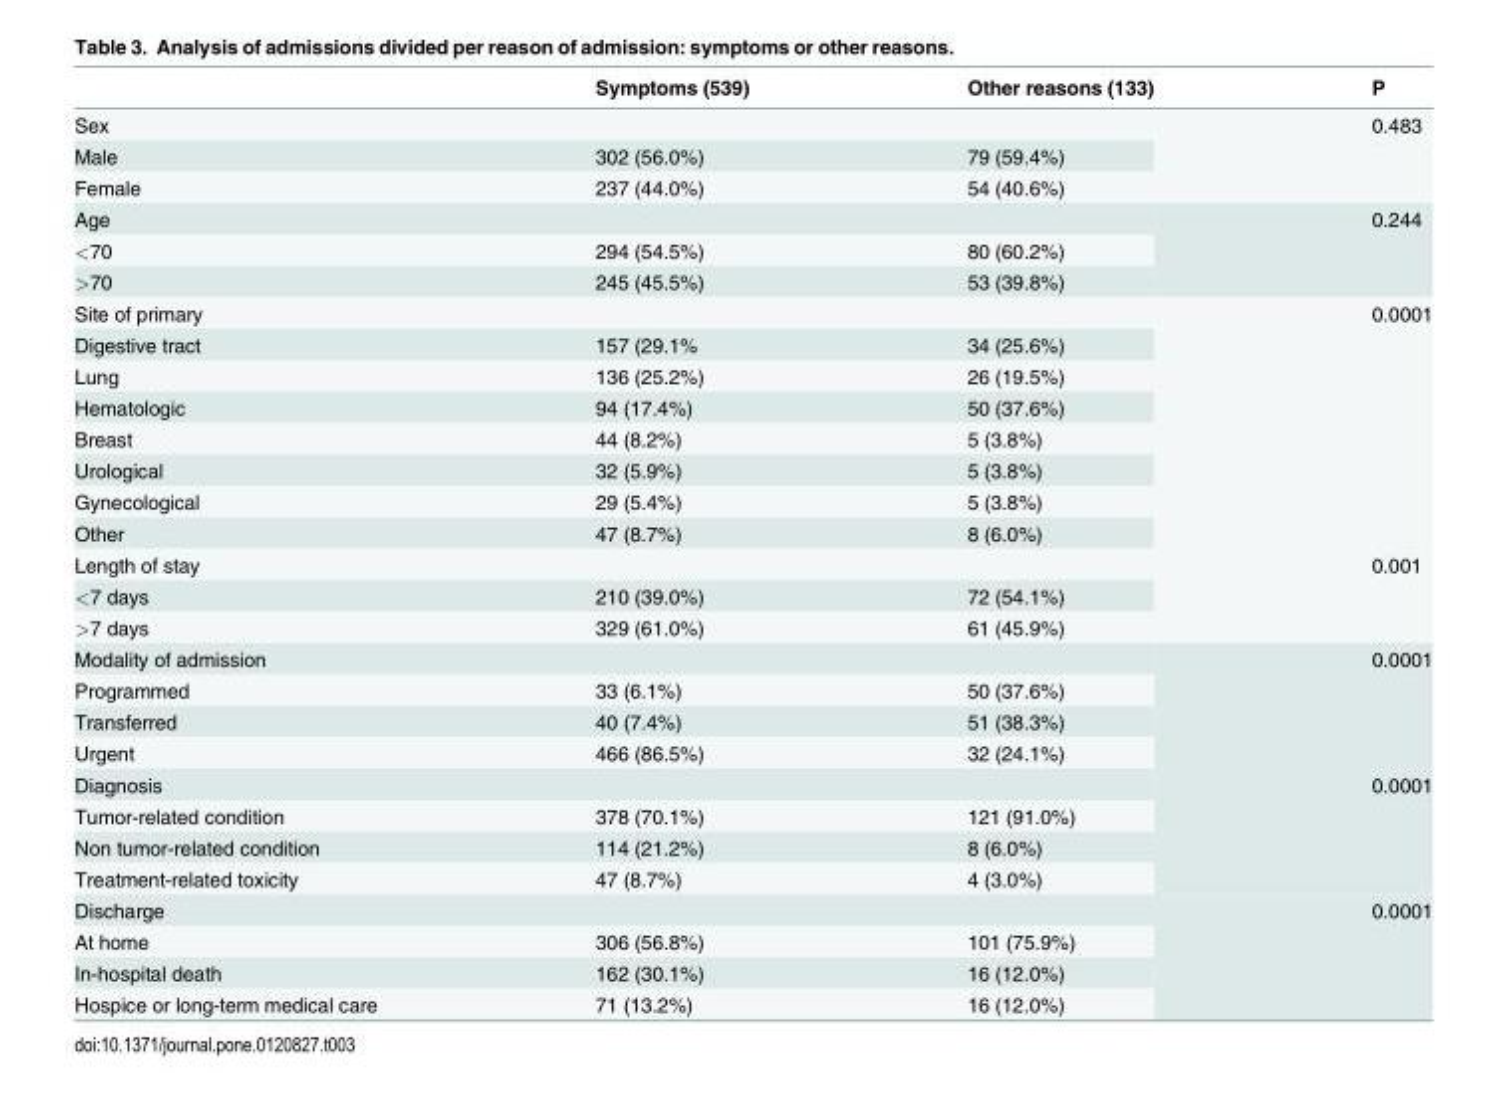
<table><thead><tr><td></td><td>Symptoms (539)</td><td>Other reasons (133)</td><td>P</td></tr></thead><tbody><tr><td colspan="3">Sex</td><td rowspan="3">0.483</td></tr><tr><td>Male</td><td>302 (56.0%)</td><td>79 (59.4%)</td></tr><tr><td>Female</td><td>237 (44.0%)</td><td>54 (40.6%)</td></tr><tr><td colspan="3">Age</td><td rowspan="3">0.244</td></tr><tr><td>&lt;70</td><td>294 (54.5%)</td><td>80 (60.2%)</td></tr><tr><td>&gt;70</td><td>245 (45.5%)</td><td>53 (39.8%)</td></tr><tr><td colspan="3">Site of primary</td><td rowspan="8">0.0001</td></tr><tr><td>Digestive tract</td><td>157 (29.1%</td><td>34 (25.6%)</td></tr><tr><td>Lung</td><td>136 (25.2%)</td><td>26 (19.5%)</td></tr><tr><td>Hematologic</td><td>94 (17.4%)</td><td>50 (37.6%)</td></tr><tr><td>Breast</td><td>44 (8.2%)</td><td>5 (3.8%)</td></tr><tr><td>Urological</td><td>32 (5.9%)</td><td>5 (3.8%)</td></tr><tr><td>Gynecological</td><td>29 (5.4%)</td><td>5 (3.8%)</td></tr><tr><td>Other</td><td>47 (8.7%)</td><td>8 (6.0%)</td></tr><tr><td colspan="3">Length of stay</td><td rowspan="3">0.001</td></tr><tr><td>&lt;7 days</td><td>210 (39.0%)</td><td>72 (54.1%)</td></tr><tr><td>&gt;7 days</td><td>329 (61.0%)</td><td>61 (45.9%)</td></tr><tr><td colspan="3">Modality of admission</td><td rowspan="4">0.0001</td></tr><tr><td>Programmed</td><td>33 (6.1%)</td><td>50 (37.6%)</td></tr><tr><td>Transferred</td><td>40 (7.4%)</td><td>51 (38.3%)</td></tr><tr><td>Urgent</td><td>466 (86.5%)</td><td>32 (24.1%)</td></tr><tr><td colspan="3">Diagnosis</td><td rowspan="4">0.0001</td></tr><tr><td>Tumor-related condition</td><td>378 (70.1%)</td><td>121 (91.0%)</td></tr><tr><td>Non tumor-related condition</td><td>114 (21.2%)</td><td>8 (6.0%)</td></tr><tr><td>Treatment-related toxicity</td><td>47 (8.7%)</td><td>4 (3.0%)</td></tr><tr><td colspan="3">Discharge</td><td rowspan="4">0.0001</td></tr><tr><td>At home</td><td>306 (56.8%)</td><td>101 (75.9%)</td></tr><tr><td>In-hospital death</td><td>162 (30.1%)</td><td>16 (12.0%)</td></tr><tr><td>Hospice or long-term medical care</td><td>71 (13.2%)</td><td>16 (12.0%)</td></tr></tbody></table>